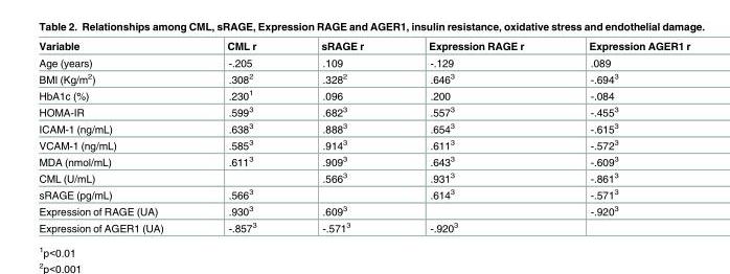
<table><thead><tr><td>Variable</td><td>CML r</td><td>sRAGE r</td><td>Expression RAGE r</td><td>Expression AGER1 r</td></tr></thead><tbody><tr><td>Age (years)</td><td>-.205</td><td>.109</td><td>-.129</td><td>.089</td></tr><tr><td>BMI (Kg/m<sup>2</sup>)</td><td>.308<sup>2</sup></td><td>.328<sup>2</sup></td><td>.646<sup>3</sup></td><td>-.694<sup>3</sup></td></tr><tr><td>HbA1c (%)</td><td>.230<sup>1</sup></td><td>.096</td><td>.200</td><td>-.084</td></tr><tr><td>HOMA-IR</td><td>.599<sup>3</sup></td><td>.682<sup>3</sup></td><td>.557<sup>3</sup></td><td>-.455<sup>3</sup></td></tr><tr><td>ICAM-1 (ng/mL)</td><td>.638<sup>3</sup></td><td>.888<sup>3</sup></td><td>.654<sup>3</sup></td><td>-.615<sup>3</sup></td></tr><tr><td>VCAM-1 (ng/mL)</td><td>.585<sup>3</sup></td><td>.914<sup>3</sup></td><td>.611<sup>3</sup></td><td>-.572<sup>3</sup></td></tr><tr><td>MDA (nmol/mL)</td><td>.611<sup>3</sup></td><td>.909<sup>3</sup></td><td>.643<sup>3</sup></td><td>-.609<sup>3</sup></td></tr><tr><td>CML (U/mL)</td><td></td><td>.566<sup>3</sup></td><td>.931<sup>3</sup></td><td>-.861<sup>3</sup></td></tr><tr><td>sRAGE (pg/mL)</td><td>.566<sup>3</sup></td><td></td><td>.614<sup>3</sup></td><td>-.571<sup>3</sup></td></tr><tr><td>Expression of RAGE (UA)</td><td>.930<sup>3</sup></td><td>.609<sup>3</sup></td><td></td><td>-.920<sup>3</sup></td></tr><tr><td>Expression of AGER1 (UA)</td><td>-.857<sup>3</sup></td><td>-.571<sup>3</sup></td><td>-.920<sup>3</sup></td><td></td></tr></tbody></table>